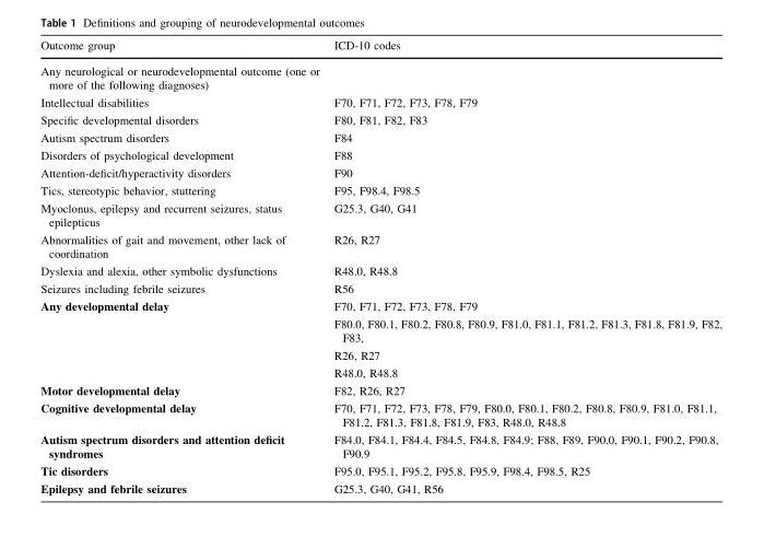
<table><thead><tr><td>Outcome group</td><td>ICD-10 codes</td></tr></thead><tbody><tr><td colspan="2">Any neurological or neurodevelopmental outcome (one or more of the following diagnoses)</td></tr><tr><td>Intellectual disabilities</td><td>F70, F71, F72, F73, F78, F79</td></tr><tr><td>Specific developmental disorders</td><td>F80, F81, F82, F83</td></tr><tr><td>Autism spectrum disorders</td><td>F84</td></tr><tr><td>Disorders of psychological development</td><td>F88</td></tr><tr><td>Attention-deficit/hyperactivity disorders</td><td>F90</td></tr><tr><td>Tics, stereotypic behavior, stuttering</td><td>F95, F98.4, F98.5</td></tr><tr><td>Myoclonus, epilepsy and recurrent seizures, status epilepticus</td><td>G25.3, G40, G41</td></tr><tr><td>Abnormalities of gait and movement, other lack of coordination</td><td>R26, R27</td></tr><tr><td>Dyslexia and alexia, other symbolic dysfunctions</td><td>R48.0, R48.8</td></tr><tr><td>Seizures including febrile seizures</td><td>R56</td></tr><tr><td>Any developmental delay</td><td>F70, F71, F72, F73, F78, F79 F80.0, F80.1, F80.2, F80.8, F80.9, F81.0, F81.1, F81.2, F81.3, F81.8, F81.9, F82, F83, R26, R27 R48.0, R48.8</td></tr><tr><td>Motor developmental delay</td><td>F82, R26, R27</td></tr><tr><td>Cognitive developmental delay</td><td>F70, F71, F72, F73, F78, F79, F80.0, F80.1, F80.2, F80.8, F80.9, F81.0, F81.1, F81.2, F81.3, F81.8, F81.9, F83, R48.0, R48.8</td></tr><tr><td>Autism spectrum disorders and attention deficit syndromes</td><td>F84.0, F84.1, F84.4, F84.5, F84.8, F84.9; F88, F89, F90.0, F90.1, F90.2, F90.8, F90.9</td></tr><tr><td>Tic disorders</td><td>F95.0, F95.1, F95.2, F95.8, F95.9, F98.4, F98.5, R25</td></tr><tr><td>Epilepsy and febrile seizures</td><td>G25.3, G40, G41, R56</td></tr></tbody></table>